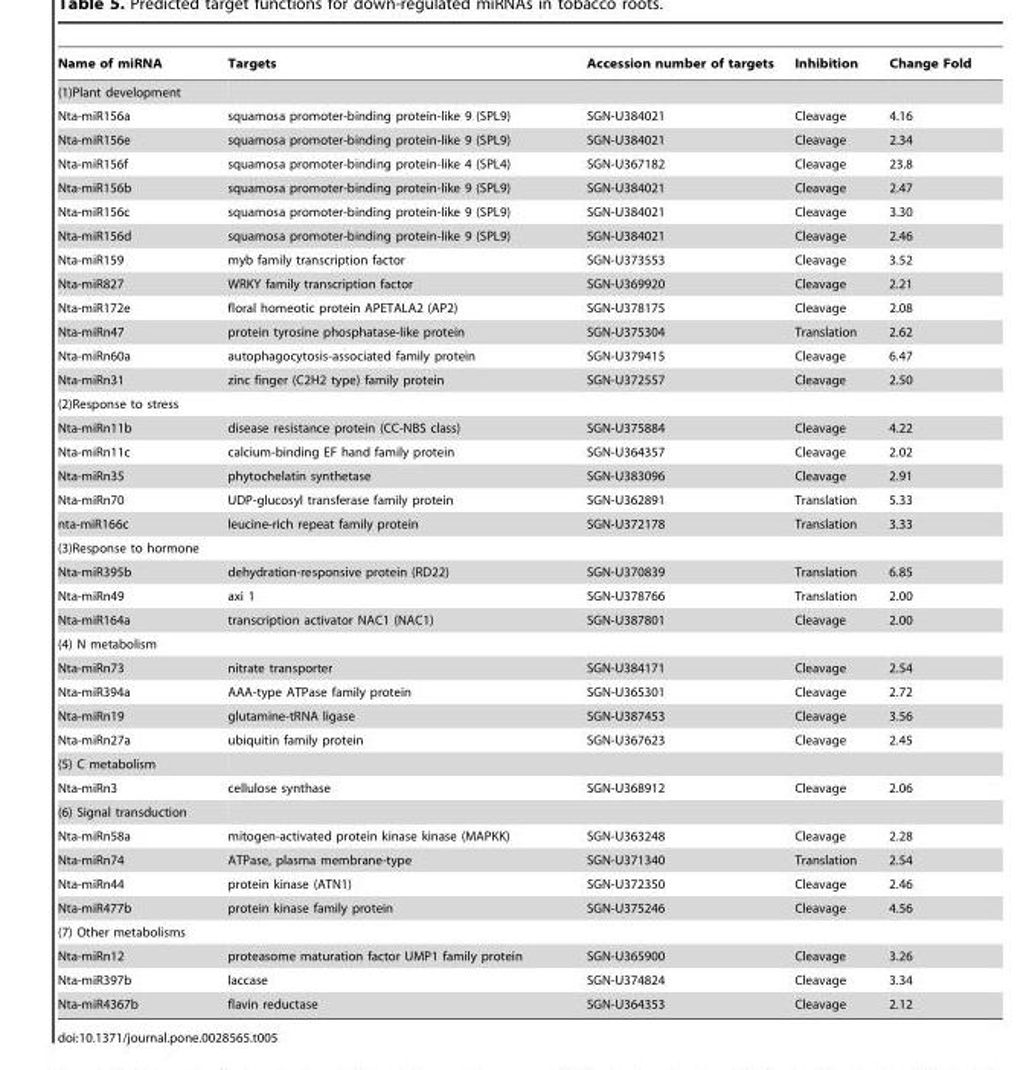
<table><thead><tr><td>Name of miRNA</td><td>Targets</td><td>Accession number of targets</td><td>Inhibition</td><td>Change Fold</td></tr></thead><tbody><tr><td colspan="5">(1)Plant development</td></tr><tr><td>Nta-miR156a</td><td>squamosa promoter-binding protein-like 9 (SPL9)</td><td>SGN-U384021</td><td>Cleavage</td><td>4.16</td></tr><tr><td>Nta-miR156e</td><td>squamosa promoter-binding protein-like 9 (SPL9)</td><td>SGN-U384021</td><td>Cleavage</td><td>2.34</td></tr><tr><td>Nta-miR156f</td><td>squamosa promoter-binding protein-like 4 (SPL4)</td><td>SGN-U367182</td><td>Cleavage</td><td>23.8</td></tr><tr><td>Nta-miR156b</td><td>squamosa promoter-binding protein-like 9 (SPL9)</td><td>SGN-U384021</td><td>Cleavage</td><td>2.47</td></tr><tr><td>Nta-miR156c</td><td>squamosa promoter-binding protein-like 9 (SPL9)</td><td>SGN-U384021</td><td>Cleavage</td><td>3.30</td></tr><tr><td>Nta-miR156d</td><td>squamosa promoter-binding protein-like 9 (SPL9)</td><td>SGN-U384021</td><td>Cleavage</td><td>2.46</td></tr><tr><td>Nta-miR159</td><td>myb family transcription factor</td><td>SGN-U373553</td><td>Cleavage</td><td>3.52</td></tr><tr><td>Nta-miR827</td><td>WRKY family transcription factor</td><td>SGN-U369920</td><td>Cleavage</td><td>2.21</td></tr><tr><td>Nta-miR172e</td><td>floral homeotic protein APETALA2 (AP2)</td><td>SGN-U378175</td><td>Cleavage</td><td>2.08</td></tr><tr><td>Nta-miRn47</td><td>protein tyrosine phosphatase-like protein</td><td>SGN-U375304</td><td>Translation</td><td>2.62</td></tr><tr><td>Nta-miRn60a</td><td>autophagocytosis-associated family protein</td><td>SGN-U379415</td><td>Cleavage</td><td>6.47</td></tr><tr><td>Nta-miRn31</td><td>zinc finger (C2H2 type) family protein</td><td>SGN-U372557</td><td>Cleavage</td><td>2.50</td></tr><tr><td colspan="5">(2)Response to stress</td></tr><tr><td>Nta-miRn11b</td><td>disease resistance protein (CC-NBS class)</td><td>SGN-U375884</td><td>Cleavage</td><td>4.22</td></tr><tr><td>Nta-miRn11c</td><td>calcium-binding EF hand family protein</td><td>SGN-U364357</td><td>Cleavage</td><td>2.02</td></tr><tr><td>Nta-miRn35</td><td>phytochelatin synthetase</td><td>SGN-U383096</td><td>Cleavage</td><td>2.91</td></tr><tr><td>Nta-miRn70</td><td>UDP-glucosyl transferase family protein</td><td>SGN-U362891</td><td>Translation</td><td>5.33</td></tr><tr><td>nta-miR166c</td><td>leucine-rich repeat family protein</td><td>SGN-U372178</td><td>Translation</td><td>3.33</td></tr><tr><td colspan="5">(3)Response to hormone</td></tr><tr><td>Nta-miR395b</td><td>dehydration-responsive protein (RD22)</td><td>SGN-U370839</td><td>Translation</td><td>6.85</td></tr><tr><td>Nta-miRn49</td><td>axi 1</td><td>SGN-U378766</td><td>Translation</td><td>2.00</td></tr><tr><td>Nta-miR164a</td><td>transcription activator NAC1 (NAC1)</td><td>SGN-U387801</td><td>Cleavage</td><td>2.00</td></tr><tr><td colspan="5">(4) N metabolism</td></tr><tr><td>Nta-miRn73</td><td>nitrate transporter</td><td>SGN-U384171</td><td>Cleavage</td><td>2.54</td></tr><tr><td>Nta-miR394a</td><td>AAA-type ATPase family protein</td><td>SGN-U365301</td><td>Cleavage</td><td>2.72</td></tr><tr><td>Nta-miRn19</td><td>glutamine-tRNA ligase</td><td>SGN-U387453</td><td>Cleavage</td><td>3.56</td></tr><tr><td>Nta-miRn27a</td><td>ubiquitin family protein</td><td>SGN-U367623</td><td>Cleavage</td><td>2.45</td></tr><tr><td colspan="5">(5) C metabolism</td></tr><tr><td>Nta-miRn3</td><td>cellulose synthase</td><td>SGN-U368912</td><td>Cleavage</td><td>2.06</td></tr><tr><td colspan="5">(6) Signal transduction</td></tr><tr><td>Nta-miRn58a</td><td>mitogen-activated protein kinase kinase (MAPKK)</td><td>SGN-U363248</td><td>Cleavage</td><td>2.28</td></tr><tr><td>Nta-miRn74</td><td>ATPase, plasma membrane-type</td><td>SGN-U371340</td><td>Translation</td><td>2.54</td></tr><tr><td>Nta-miRn44</td><td>protein kinase (ATN1)</td><td>SGN-U372350</td><td>Cleavage</td><td>2.46</td></tr><tr><td>Nta-miR477b</td><td>protein kinase family protein</td><td>SGN-U375246</td><td>Cleavage</td><td>4.56</td></tr><tr><td colspan="5">(7) Other metabolisms</td></tr><tr><td>Nta-miRn12</td><td>proteasome maturation factor UMP1 family protein</td><td>SGN-U365900</td><td>Cleavage</td><td>3.26</td></tr><tr><td>Nta-miR397b</td><td>laccase</td><td>SGN-U374824</td><td>Cleavage</td><td>3.34</td></tr><tr><td>Nta-miR4367b</td><td>flavin reductase</td><td>SGN-U364353</td><td>Cleavage</td><td>2.12</td></tr></tbody></table>